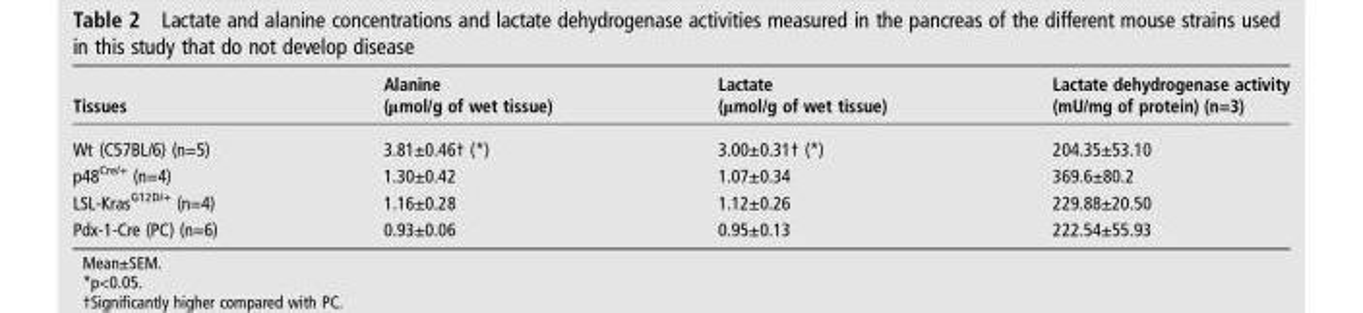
<table><thead><tr><td>Tissues</td><td>Alanine (μmol/g of wet tissue)</td><td>Lactate (μmol/g of wet tissue)</td><td>Lactate dehydrogenase activity (mU/mg of protein) (n=3)</td></tr></thead><tbody><tr><td>Wt (C57BL/6) (n=5)</td><td>3.81±0.46† (*)</td><td>3.00±0.31† (*)</td><td>204.35±53.10</td></tr><tr><td>p48<sup>Cre/+</sup> (n=4)</td><td>1.30±0.42</td><td>1.07±0.34</td><td>369.6±80.2</td></tr><tr><td>LSL-Kras<sup>G12D/+</sup> (n=4)</td><td>1.16±0.28</td><td>1.12±0.26</td><td>229.88±20.50</td></tr><tr><td>Pdx-1-Cre (PC) (n=6)</td><td>0.93±0.06</td><td>0.95±0.13</td><td>222.54±55.93</td></tr></tbody></table>